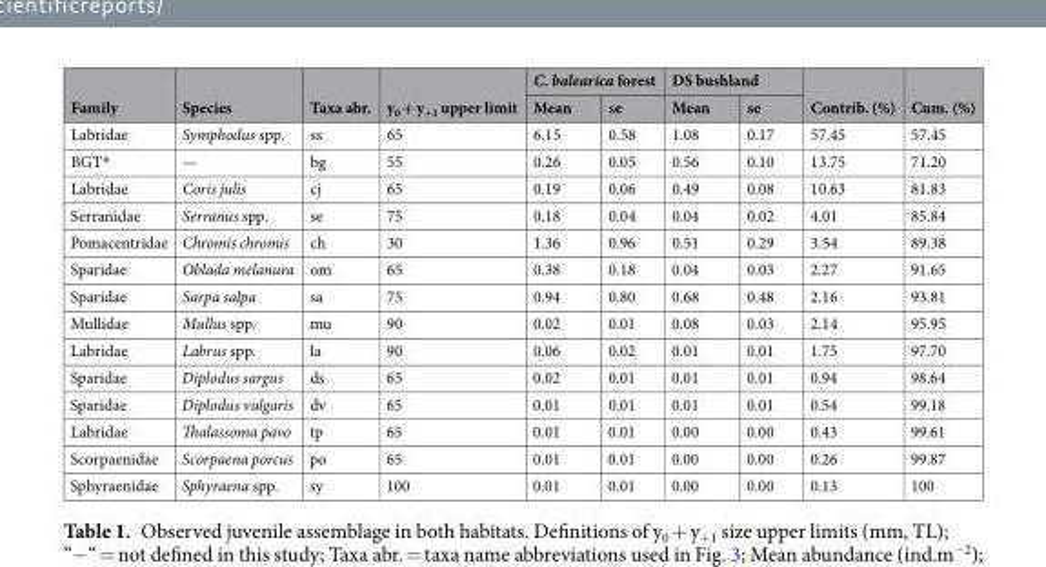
<table><thead><tr><td rowspan="2">Family</td><td rowspan="2">Species</td><td rowspan="2">Taxa abr.</td><td rowspan="2">y<sub>0</sub> + y<sub>+1</sub> upper limit</td><td colspan="2">C. balearica forest</td><td colspan="2">DS bushland</td><td rowspan="2">Contrib. (%)</td><td rowspan="2">Cum. (%)</td></tr><tr><td>Mean</td><td>se</td><td>Mean</td><td>se</td></tr></thead><tbody><tr><td>Labridae</td><td>Symphodus spp.</td><td>ss</td><td>65</td><td>6.15</td><td>0.58</td><td>1.08</td><td>0.17</td><td>57.45</td><td>57.45</td></tr><tr><td>BGT*</td><td>—</td><td>bg</td><td>55</td><td>0.26</td><td>0.05</td><td>0.56</td><td>0.10</td><td>13.75</td><td>71.20</td></tr><tr><td>Labridae</td><td>Coris julis</td><td>cj</td><td>65</td><td>0.19</td><td>0.06</td><td>0.49</td><td>0.08</td><td>10.63</td><td>81.83</td></tr><tr><td>Serranidae</td><td>Serranus spp.</td><td>se</td><td>75</td><td>0.18</td><td>0.04</td><td>0.04</td><td>0.02</td><td>4.01</td><td>85.84</td></tr><tr><td>Pomacentridae</td><td>Chromis chromis</td><td>ch</td><td>30</td><td>1.36</td><td>0.96</td><td>0.51</td><td>0.29</td><td>3.54</td><td>89.38</td></tr><tr><td>Sparidae</td><td>Oblada melanura</td><td>om</td><td>65</td><td>0.38</td><td>0.18</td><td>0.04</td><td>0.03</td><td>2.27</td><td>91.65</td></tr><tr><td>Sparidae</td><td>Sarpa salpa</td><td>sa</td><td>75</td><td>0.94</td><td>0.80</td><td>0.68</td><td>0.48</td><td>2.16</td><td>93.81</td></tr><tr><td>Mullidae</td><td>Mullus spp.</td><td>mu</td><td>90</td><td>0.02</td><td>0.01</td><td>0.08</td><td>0.03</td><td>2.14</td><td>95.95</td></tr><tr><td>Labridae</td><td>Labrus spp.</td><td>la</td><td>90</td><td>0.06</td><td>0.02</td><td>0.01</td><td>0.01</td><td>1.75</td><td>97.70</td></tr><tr><td>Sparidae</td><td>Diplodus sargus</td><td>ds</td><td>65</td><td>0.02</td><td>0.01</td><td>0.01</td><td>0.01</td><td>0.94</td><td>98.64</td></tr><tr><td>Sparidae</td><td>Diplodus vulgaris</td><td>dv</td><td>65</td><td>0.01</td><td>0.01</td><td>0.01</td><td>0.01</td><td>0.54</td><td>99.18</td></tr><tr><td>Labridae</td><td>Thalassoma pavo</td><td>tp</td><td>65</td><td>0.01</td><td>0.01</td><td>0.00</td><td>0.00</td><td>0.43</td><td>99.61</td></tr><tr><td>Scorpaenidae</td><td>Scorpaena porcus</td><td>po</td><td>65</td><td>0.01</td><td>0.01</td><td>0.00</td><td>0.00</td><td>0.26</td><td>99.87</td></tr><tr><td>Sphyraenidae</td><td>Sphyraena spp.</td><td>sy</td><td>100</td><td>0.01</td><td>0.01</td><td>0.00</td><td>0.00</td><td>0.13</td><td>100</td></tr></tbody></table>